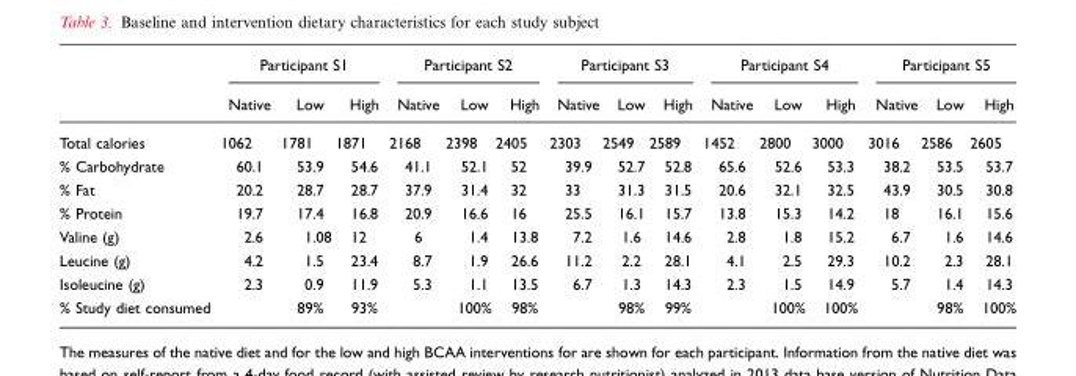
<table><thead><tr><td rowspan="2"></td><td colspan="3">Participant S1</td><td colspan="3">Participant S2</td><td colspan="3">Participant S3</td><td colspan="3">Participant S4</td><td colspan="3">Participant S5</td></tr><tr><td>Native</td><td>Low</td><td>High</td><td>Native</td><td>Low</td><td>High</td><td>Native</td><td>Low</td><td>High</td><td>Native</td><td>Low</td><td>High</td><td>Native</td><td>Low</td><td>High</td></tr></thead><tbody><tr><td>Total calories</td><td>1062</td><td>1781</td><td>1871</td><td>2168</td><td>2398</td><td>2405</td><td>2303</td><td>2549</td><td>2589</td><td>1452</td><td>2800</td><td>3000</td><td>3016</td><td>2586</td><td>2605</td></tr><tr><td>% Carbohydrate</td><td>60.1</td><td>53.9</td><td>54.6</td><td>41.1</td><td>52.1</td><td>52</td><td>39.9</td><td>52.7</td><td>52.8</td><td>65.6</td><td>52.6</td><td>53.3</td><td>38.2</td><td>53.5</td><td>53.7</td></tr><tr><td>% Fat</td><td>20.2</td><td>28.7</td><td>28.7</td><td>37.9</td><td>31.4</td><td>32</td><td>33</td><td>31.3</td><td>31.5</td><td>20.6</td><td>32.1</td><td>32.5</td><td>43.9</td><td>30.5</td><td>30.8</td></tr><tr><td>% Protein</td><td>19.7</td><td>17.4</td><td>16.8</td><td>20.9</td><td>16.6</td><td>16</td><td>25.5</td><td>16.1</td><td>15.7</td><td>13.8</td><td>15.3</td><td>14.2</td><td>18</td><td>16.1</td><td>15.6</td></tr><tr><td>Valine (g)</td><td>2.6</td><td>1.08</td><td>12</td><td>6</td><td>1.4</td><td>13.8</td><td>7.2</td><td>1.6</td><td>14.6</td><td>2.8</td><td>1.8</td><td>15.2</td><td>6.7</td><td>1.6</td><td>14.6</td></tr><tr><td>Leucine (g)</td><td>4.2</td><td>1.5</td><td>23.4</td><td>8.7</td><td>1.9</td><td>26.6</td><td>11.2</td><td>2.2</td><td>28.1</td><td>4.1</td><td>2.5</td><td>29.3</td><td>10.2</td><td>2.3</td><td>28.1</td></tr><tr><td>Isoleucine (g)</td><td>2.3</td><td>0.9</td><td>11.9</td><td>5.3</td><td>1.1</td><td>13.5</td><td>6.7</td><td>1.3</td><td>14.3</td><td>2.3</td><td>1.5</td><td>14.9</td><td>5.7</td><td>1.4</td><td>14.3</td></tr><tr><td>% Study diet consumed</td><td></td><td>89%</td><td>93%</td><td></td><td>100%</td><td>98%</td><td></td><td>98%</td><td>99%</td><td></td><td>100%</td><td>100%</td><td></td><td>98%</td><td>100%</td></tr></tbody></table>